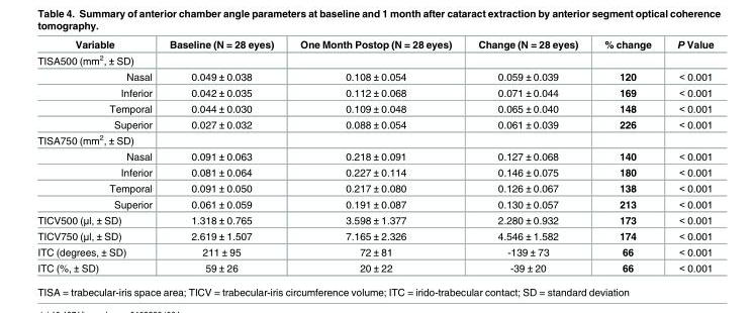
<table><thead><tr><td>Variable</td><td>Baseline (N = 28 eyes)</td><td>One Month Postop (N = 28 eyes)</td><td>Change (N = 28 eyes)</td><td>% change</td><td>P Value</td></tr></thead><tbody><tr><td colspan="6">TISA500 (mm<sup>2</sup>, ± SD)</td></tr><tr><td>Nasal</td><td>0.049 ± 0.038</td><td>0.108 ± 0.054</td><td>0.059 ± 0.039</td><td>120</td><td>&lt; 0.001</td></tr><tr><td>Inferior</td><td>0.042 ± 0.035</td><td>0.112 ± 0.068</td><td>0.071 ± 0.044</td><td>169</td><td>&lt; 0.001</td></tr><tr><td>Temporal</td><td>0.044 ± 0.030</td><td>0.109 ± 0.048</td><td>0.065 ± 0.040</td><td>148</td><td>&lt; 0.001</td></tr><tr><td>Superior</td><td>0.027 ± 0.032</td><td>0.088 ± 0.054</td><td>0.061 ± 0.039</td><td>226</td><td>&lt; 0.001</td></tr><tr><td colspan="6">TISA750 (mm<sup>2</sup>, ± SD)</td></tr><tr><td>Nasal</td><td>0.091 ± 0.063</td><td>0.218 ± 0.091</td><td>0.127 ± 0.068</td><td>140</td><td>&lt; 0.001</td></tr><tr><td>Inferior</td><td>0.081 ± 0.064</td><td>0.227 ± 0.114</td><td>0.146 ± 0.075</td><td>180</td><td>&lt; 0.001</td></tr><tr><td>Temporal</td><td>0.091 ± 0.050</td><td>0.217 ± 0.080</td><td>0.126 ± 0.067</td><td>138</td><td>&lt; 0.001</td></tr><tr><td>Superior</td><td>0.061 ± 0.059</td><td>0.191 ± 0.087</td><td>0.130 ± 0.057</td><td>213</td><td>&lt; 0.001</td></tr><tr><td>TICV500 (μl, ± SD)</td><td>1.318 ± 0.765</td><td>3.598 ± 1.377</td><td>2.280 ± 0.932</td><td>173</td><td>&lt; 0.001</td></tr><tr><td>TICV750 (μl, ± SD)</td><td>2.619 ± 1.507</td><td>7.165 ± 2.326</td><td>4.546 ± 1.582</td><td>174</td><td>&lt; 0.001</td></tr><tr><td>ITC (degrees, ± SD)</td><td>211 ± 95</td><td>72 ± 81</td><td>-139 ± 73</td><td>66</td><td>&lt; 0.001</td></tr><tr><td>ITC (%, ± SD)</td><td>59 ± 26</td><td>20 ± 22</td><td>-39 ± 20</td><td>66</td><td>&lt; 0.001</td></tr></tbody></table>